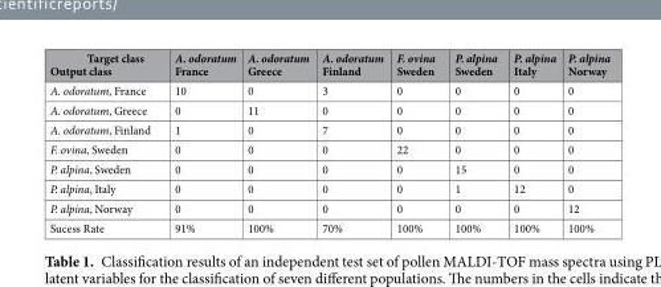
<table><thead><tr><td>Target class Output class</td><td>A. odoratum France</td><td>A. odoratum Greece</td><td>A. odoratum Finland</td><td>F. ovina Sweden</td><td>P. alpina Sweden</td><td>P. alpina Italy</td><td>P. alpina Norway</td></tr></thead><tbody><tr><td>A. odoratum, France</td><td>10</td><td>0</td><td>3</td><td>0</td><td>0</td><td>0</td><td>0</td></tr><tr><td>A. odoratum, Greece</td><td>0</td><td>11</td><td>0</td><td>0</td><td>0</td><td>0</td><td>0</td></tr><tr><td>A. odoratum, Finland</td><td>1</td><td>0</td><td>7</td><td>0</td><td>0</td><td>0</td><td>0</td></tr><tr><td>F. ovina, Sweden</td><td>0</td><td>0</td><td>0</td><td>22</td><td>0</td><td>0</td><td>0</td></tr><tr><td>P. alpina, Sweden</td><td>0</td><td>0</td><td>0</td><td>0</td><td>15</td><td>0</td><td>0</td></tr><tr><td>P. alpina, Italy</td><td>0</td><td>0</td><td>0</td><td>0</td><td>1</td><td>12</td><td>0</td></tr><tr><td>P. alpina, Norway</td><td>0</td><td>0</td><td>0</td><td>0</td><td>0</td><td>0</td><td>12</td></tr><tr><td>Sucess Rate</td><td>91%</td><td>100%</td><td>70%</td><td>100%</td><td>100%</td><td>100%</td><td>100%</td></tr></tbody></table>